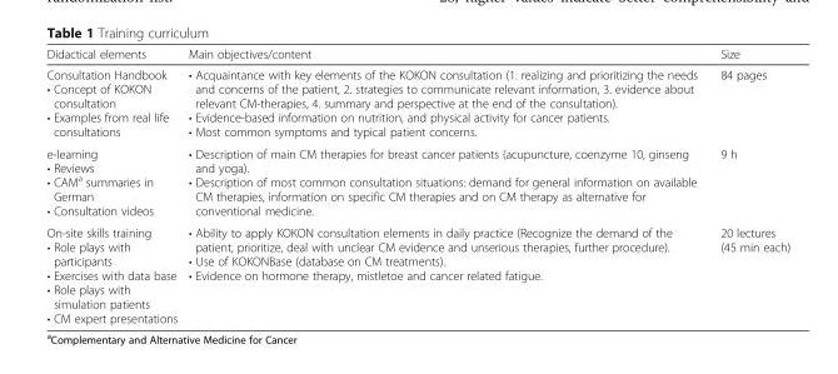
<table><thead><tr><td>Didactical elements</td><td>Main objectives/content</td><td>Size</td></tr></thead><tbody><tr><td>Consultation Handbook • Concept of KOKON consultation • Examples from real life consultations</td><td>• Acquaintance with key elements of the KOKON consultation (1. realizing and prioritizing the needs and concerns of the patient, 2. strategies to communicate relevant information, 3. evidence about relevant CM-therapies, 4. summary and perspective at the end of the consultation). • Evidence-based information on nutrition, and physical activity for cancer patients. • Most common symptoms and typical patient concerns.</td><td>84 pages</td></tr><tr><td>e-learning • Reviews • CAM<sup>a</sup> summaries in German • Consultation videos</td><td>• Description of main CM therapies for breast cancer patients (acupuncture, coenzyme 10, ginseng and yoga). • Description of most common consultation situations: demand for general information on available CM therapies, information on specific CM therapies and on CM therapy as alternative for conventional medicine.</td><td>9 h</td></tr><tr><td>On-site skills training • Role plays with participants • Exercises with data base • Role plays with simulation patients • CM expert presentations</td><td>• Ability to apply KOKON consultation elements in daily practice (Recognize the demand of the patient, prioritize, deal with unclear CM evidence and unserious therapies, further procedure). • Use of KOKONBase (database on CM treatments). • Evidence on hormone therapy, mistletoe and cancer related fatigue.</td><td>20 lectures (45 min each)</td></tr></tbody></table>